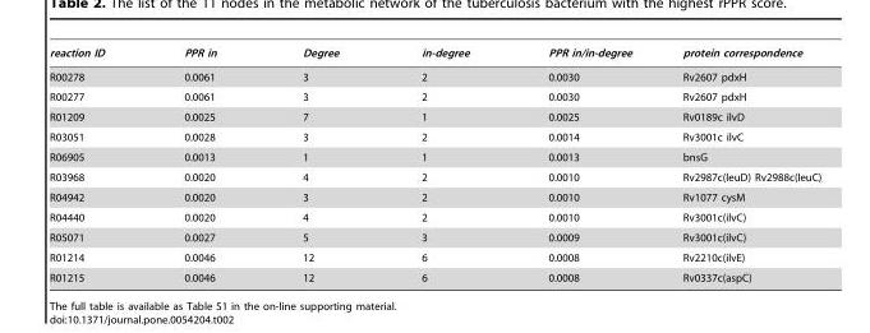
<table><thead><tr><td>reaction ID</td><td>PPR in</td><td>Degree</td><td>in-degree</td><td>PPR in/in-degree</td><td>protein correspondence</td></tr></thead><tbody><tr><td>R00278</td><td>0.0061</td><td>3</td><td>2</td><td>0.0030</td><td>Rv2607 pdxH</td></tr><tr><td>R00277</td><td>0.0061</td><td>3</td><td>2</td><td>0.0030</td><td>Rv2607 pdxH</td></tr><tr><td>R01209</td><td>0.0025</td><td>7</td><td>1</td><td>0.0025</td><td>Rv0189c ilvD</td></tr><tr><td>R03051</td><td>0.0028</td><td>3</td><td>2</td><td>0.0014</td><td>Rv3001c ilvC</td></tr><tr><td>R06905</td><td>0.0013</td><td>1</td><td>1</td><td>0.0013</td><td>bnsG</td></tr><tr><td>R03968</td><td>0.0020</td><td>4</td><td>2</td><td>0.0010</td><td>Rv2987c(leuD) Rv2988c(leuC)</td></tr><tr><td>R04942</td><td>0.0020</td><td>3</td><td>2</td><td>0.0010</td><td>Rv1077 cysM</td></tr><tr><td>R04440</td><td>0.0020</td><td>4</td><td>2</td><td>0.0010</td><td>Rv3001c(ilvC)</td></tr><tr><td>R05071</td><td>0.0027</td><td>5</td><td>3</td><td>0.0009</td><td>Rv3001c(ilvC)</td></tr><tr><td>R01214</td><td>0.0046</td><td>12</td><td>6</td><td>0.0008</td><td>Rv2210c(ilvE)</td></tr><tr><td>R01215</td><td>0.0046</td><td>12</td><td>6</td><td>0.0008</td><td>Rv0337c(aspC)</td></tr></tbody></table>